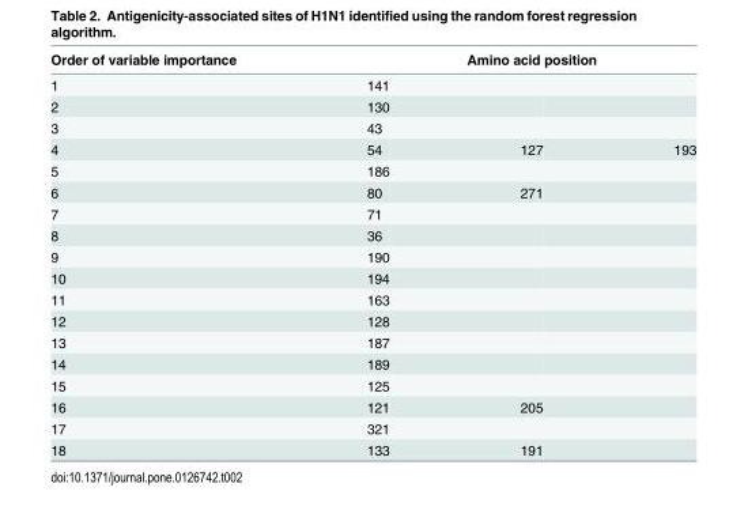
<table><thead><tr><td rowspan="2">Order of variable importance 1</td><td colspan="3">Amino acid position</td></tr><tr><td>141</td><td></td><td></td></tr></thead><tbody><tr><td>2</td><td>130</td><td></td><td></td></tr><tr><td>3</td><td>43</td><td></td><td></td></tr><tr><td>4</td><td>54</td><td>127</td><td>193</td></tr><tr><td>5</td><td>186</td><td></td><td></td></tr><tr><td>6</td><td>80</td><td>271</td><td></td></tr><tr><td>7</td><td>71</td><td></td><td></td></tr><tr><td>8</td><td>36</td><td></td><td></td></tr><tr><td>9</td><td>190</td><td></td><td></td></tr><tr><td>10</td><td>194</td><td></td><td></td></tr><tr><td>11</td><td>163</td><td></td><td></td></tr><tr><td>12</td><td>128</td><td></td><td></td></tr><tr><td>13</td><td>187</td><td></td><td></td></tr><tr><td>14</td><td>189</td><td></td><td></td></tr><tr><td>15</td><td>125</td><td></td><td></td></tr><tr><td>16</td><td>121</td><td>205</td><td></td></tr><tr><td>17</td><td>321</td><td></td><td></td></tr><tr><td>18</td><td>133</td><td>191</td><td></td></tr></tbody></table>